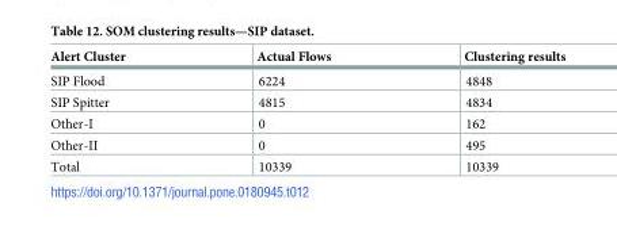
<table><thead><tr><td>Alert Cluster</td><td>Actual Flows</td><td>Clustering results</td></tr></thead><tbody><tr><td>SIP Flood</td><td>6224</td><td>4848</td></tr><tr><td>SIP Spitter</td><td>4815</td><td>4834</td></tr><tr><td>Other-I</td><td>0</td><td>162</td></tr><tr><td>Other-II</td><td>0</td><td>495</td></tr><tr><td>Total</td><td>10339</td><td>10339</td></tr></tbody></table>